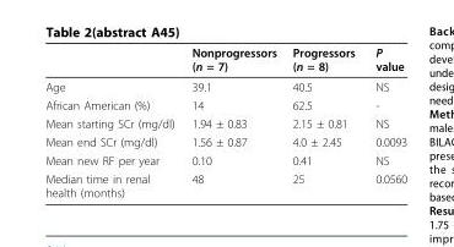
<table><thead><tr><td></td><td>Nonprogressors (n = 7)</td><td>Progressors (n = 8)</td><td>P value</td></tr></thead><tbody><tr><td>Age</td><td>39.1</td><td>40.5</td><td>NS</td></tr><tr><td>African American (%)</td><td>14</td><td>62.5</td><td>-</td></tr><tr><td>Mean starting SCr (mg/dl)</td><td>1.94 ± 0.83</td><td>2.15 ± 0.81</td><td>NS</td></tr><tr><td>Mean end SCr (mg/dl)</td><td>1.56 ± 0.87</td><td>4.0 ± 2.45</td><td>0.0093</td></tr><tr><td>Mean new RF per year</td><td>0.10</td><td>0.41</td><td>NS</td></tr><tr><td>Median time in renal health (months)</td><td>48</td><td>25</td><td>0.0560</td></tr></tbody></table>